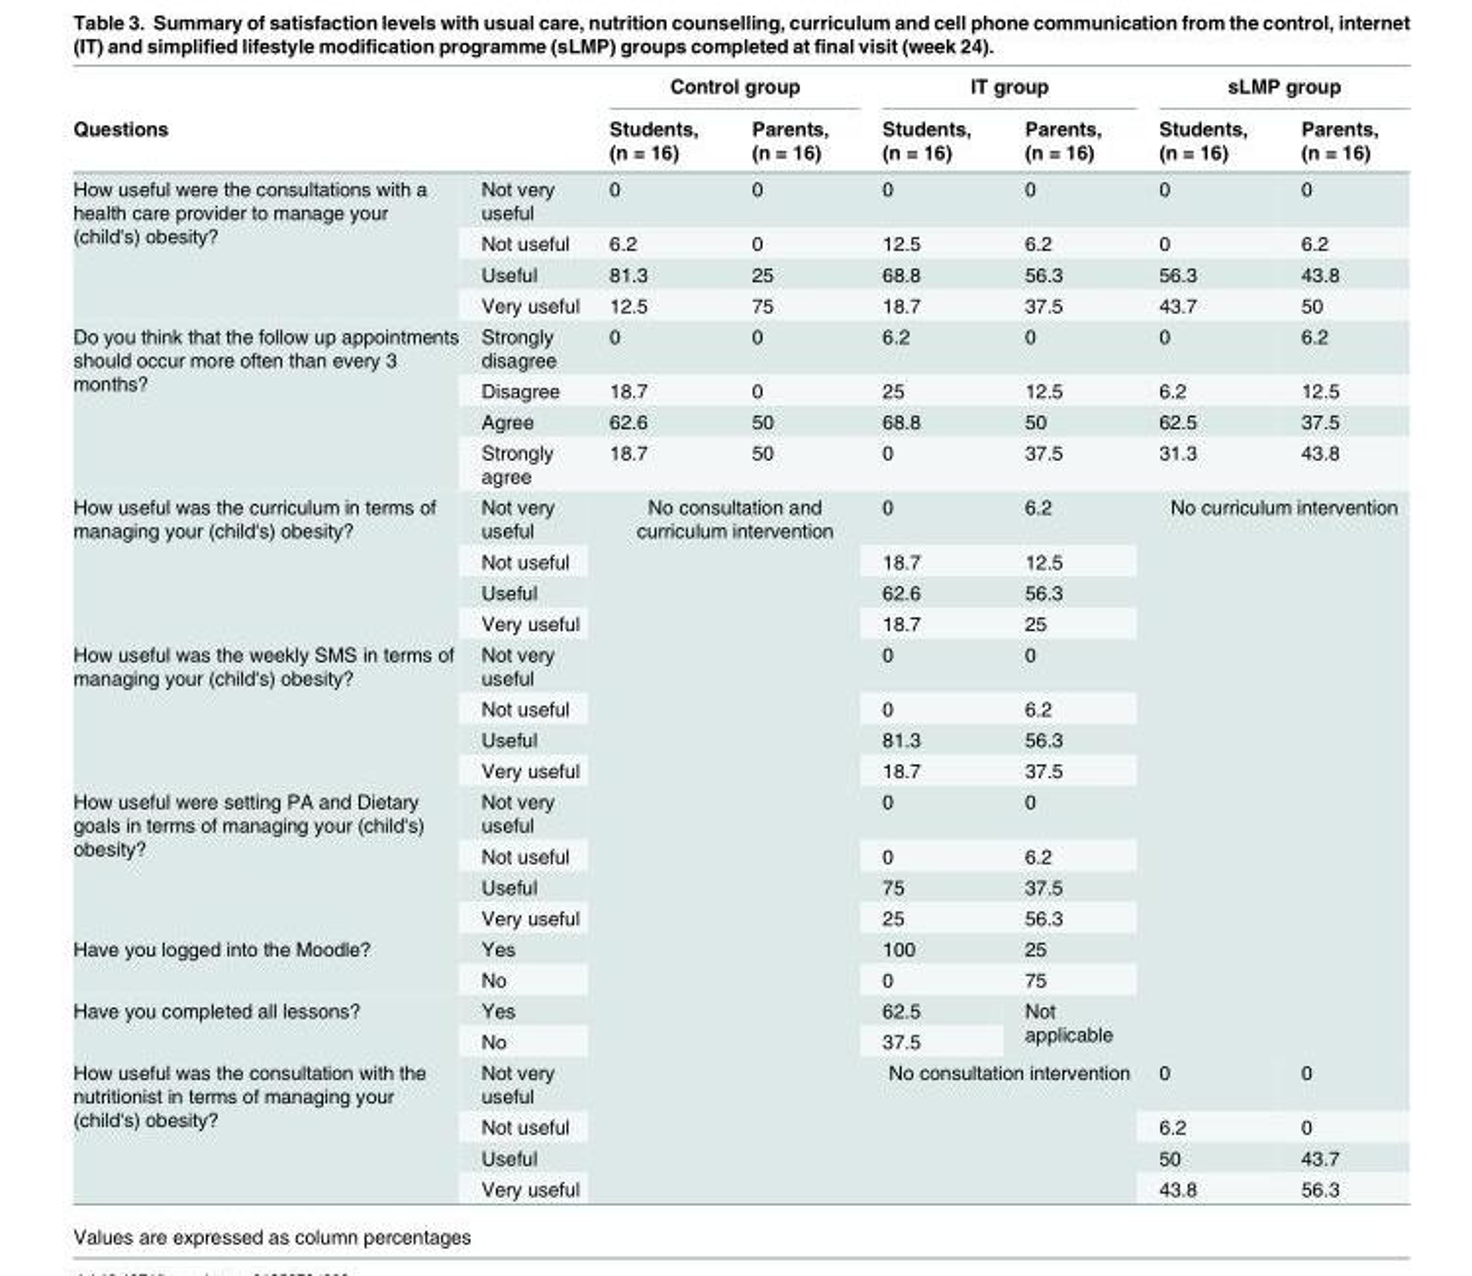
<table><thead><tr><td rowspan="2">Questions</td><td rowspan="2"></td><td colspan="2">Control group</td><td colspan="2">IT group</td><td colspan="2">sLMP group</td></tr><tr><td>Students, (n = 16)</td><td>Parents, (n = 16)</td><td>Students, (n = 16)</td><td>Parents, (n = 16)</td><td>Students, (n = 16)</td><td>Parents, (n = 16)</td></tr></thead><tbody><tr><td rowspan="4">How useful were the consultations with a health care provider to manage your (child&#x27;s) obesity?</td><td>Not very useful</td><td>0</td><td>0</td><td>0</td><td>0</td><td>0</td><td>0</td></tr><tr><td>Not useful</td><td>6.2</td><td>0</td><td>12.5</td><td>6.2</td><td>0</td><td>6.2</td></tr><tr><td>Useful</td><td>81.3</td><td>25</td><td>68.8</td><td>56.3</td><td>56.3</td><td>43.8</td></tr><tr><td>Very useful</td><td>12.5</td><td>75</td><td>18.7</td><td>37.5</td><td>43.7</td><td>50</td></tr><tr><td rowspan="4">Do you think that the follow up appointments should occur more often than every 3 months?</td><td>Strongly disagree</td><td>0</td><td>0</td><td>6.2</td><td>0</td><td>0</td><td>6.2</td></tr><tr><td>Disagree</td><td>18.7</td><td>0</td><td>25</td><td>12.5</td><td>6.2</td><td>12.5</td></tr><tr><td>Agree</td><td>62.6</td><td>50</td><td>68.8</td><td>50</td><td>62.5</td><td>37.5</td></tr><tr><td>Strongly agree</td><td>18.7</td><td>50</td><td>0</td><td>37.5</td><td>31.3</td><td>43.8</td></tr><tr><td rowspan="4">How useful was the curriculum in terms of managing your (child&#x27;s) obesity?</td><td>Not very useful</td><td rowspan="20" colspan="2">No consultation and curriculum intervention</td><td>0</td><td>6.2</td><td rowspan="16" colspan="2">No curriculum intervention</td></tr><tr><td>Not useful</td><td>18.7</td><td>12.5</td></tr><tr><td>Useful</td><td>62.6</td><td>56.3</td></tr><tr><td>Very useful</td><td>18.7</td><td>25</td></tr><tr><td rowspan="4">How useful was the weekly SMS in terms of managing your (child&#x27;s) obesity?</td><td>Not very useful</td><td>0</td><td>0</td></tr><tr><td>Not useful</td><td>0</td><td>6.2</td></tr><tr><td>Useful</td><td>81.3</td><td>56.3</td></tr><tr><td>Very useful</td><td>18.7</td><td>37.5</td></tr><tr><td rowspan="4">How useful were setting PA and Dietary goals in terms of managing your (child&#x27;s) obesity?</td><td>Not very useful</td><td>0</td><td>0</td></tr><tr><td>Not useful</td><td>0</td><td>6.2</td></tr><tr><td>Useful</td><td>75</td><td>37.5</td></tr><tr><td>Very useful</td><td>25</td><td>56.3</td></tr><tr><td rowspan="2">Have you logged into the Moodle?</td><td>Yes</td><td>100</td><td>25</td></tr><tr><td>No</td><td>0</td><td>75</td></tr><tr><td rowspan="2">Have you completed all lessons?</td><td>Yes</td><td>62.5</td><td rowspan="2">Not applicable</td></tr><tr><td>No</td><td>37.5</td></tr><tr><td rowspan="4">How useful was the consultation with the nutritionist in terms of managing your (child&#x27;s) obesity?</td><td>Not very useful</td><td rowspan="4" colspan="2">No consultation intervention</td><td>0</td><td>0</td></tr><tr><td>Not useful</td><td>6.2</td><td>0</td></tr><tr><td>Useful</td><td>50</td><td>43.7</td></tr><tr><td>Very useful</td><td>43.8</td><td>56.3</td></tr></tbody></table>